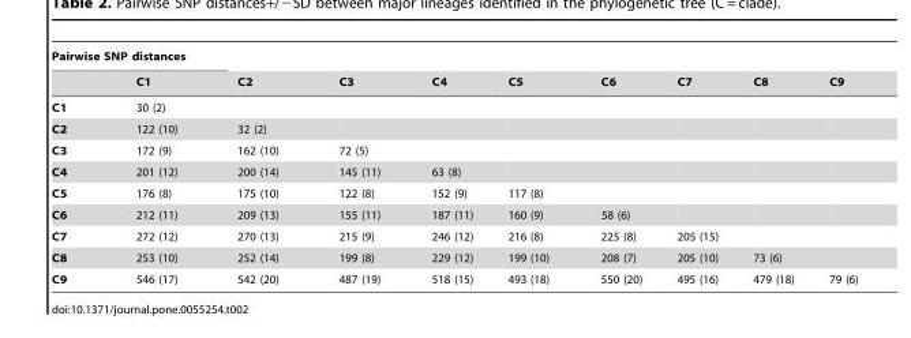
<table><thead><tr><td colspan="2">Pairwise SNP distances</td><td rowspan="2">C2</td><td rowspan="2">C3</td><td rowspan="2">C4</td><td rowspan="2">C5</td><td rowspan="2">C6</td><td rowspan="2">C7</td><td rowspan="2">C8</td><td rowspan="2">C9</td></tr><tr><td></td><td>C1</td></tr></thead><tbody><tr><td>C1</td><td>30 (2)</td><td></td><td></td><td></td><td></td><td></td><td></td><td></td><td></td></tr><tr><td>C2</td><td>122 (10)</td><td>32 (2)</td><td></td><td></td><td></td><td></td><td></td><td></td><td></td></tr><tr><td>C3</td><td>172 (9)</td><td>162 (10)</td><td>72 (5)</td><td></td><td></td><td></td><td></td><td></td><td></td></tr><tr><td>C4</td><td>201 (12)</td><td>200 (14)</td><td>145 (11)</td><td>63 (8)</td><td></td><td></td><td></td><td></td><td></td></tr><tr><td>C5</td><td>176 (8)</td><td>175 (10)</td><td>122 (8)</td><td>152 (9)</td><td>117 (8)</td><td></td><td></td><td></td><td></td></tr><tr><td>C6</td><td>212 (11)</td><td>209 (13)</td><td>155 (11)</td><td>187 (11)</td><td>160 (9)</td><td>58 (6)</td><td></td><td></td><td></td></tr><tr><td>C7</td><td>272 (12)</td><td>270 (13)</td><td>215 (9)</td><td>246 (12)</td><td>216 (8)</td><td>225 (8)</td><td>205 (15)</td><td></td><td></td></tr><tr><td>C8</td><td>253 (10)</td><td>252 (14)</td><td>199 (8)</td><td>229 (12)</td><td>199 (10)</td><td>208 (7)</td><td>205 (10)</td><td>73 (6)</td><td></td></tr><tr><td>C9</td><td>546 (17)</td><td>542 (20)</td><td>487 (19)</td><td>518 (15)</td><td>493 (18)</td><td>550 (20)</td><td>495 (16)</td><td>479 (18)</td><td>79 (6)</td></tr></tbody></table>